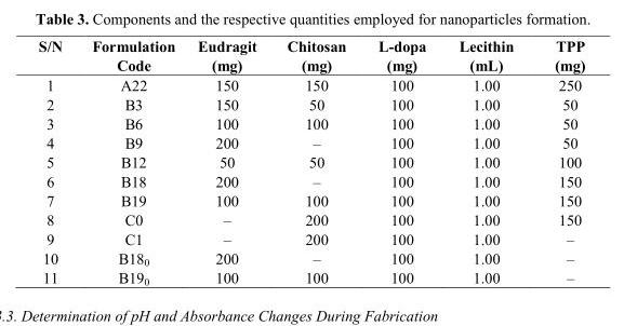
<table><thead><tr><td>S/N</td><td>Formulation Code</td><td>Eudragit (mg)</td><td>Chitosan (mg)</td><td>L-dopa (mg)</td><td>Lecithin (mL)</td><td>TPP (mg)</td></tr></thead><tbody><tr><td>1</td><td>A22</td><td>150</td><td>150</td><td>100</td><td>1.00</td><td>250</td></tr><tr><td>2</td><td>B3</td><td>150</td><td>50</td><td>100</td><td>1.00</td><td>50</td></tr><tr><td>3</td><td>B6</td><td>100</td><td>100</td><td>100</td><td>1.00</td><td>50</td></tr><tr><td>4</td><td>B9</td><td>200</td><td>–</td><td>100</td><td>1.00</td><td>50</td></tr><tr><td>5</td><td>B12</td><td>50</td><td>50</td><td>100</td><td>1.00</td><td>100</td></tr><tr><td>6</td><td>B18</td><td>200</td><td>–</td><td>100</td><td>1.00</td><td>150</td></tr><tr><td>7</td><td>B19</td><td>100</td><td>100</td><td>100</td><td>1.00</td><td>150</td></tr><tr><td>8</td><td>C0</td><td>–</td><td>200</td><td>100</td><td>1.00</td><td>150</td></tr><tr><td>9</td><td>C1</td><td>–</td><td>200</td><td>100</td><td>1.00</td><td>–</td></tr><tr><td>10</td><td>B18<sub>0</sub></td><td>200</td><td>–</td><td>100</td><td>1.00</td><td>–</td></tr><tr><td>11</td><td>B19<sub>0</sub></td><td>100</td><td>100</td><td>100</td><td>1.00</td><td>–</td></tr></tbody></table>